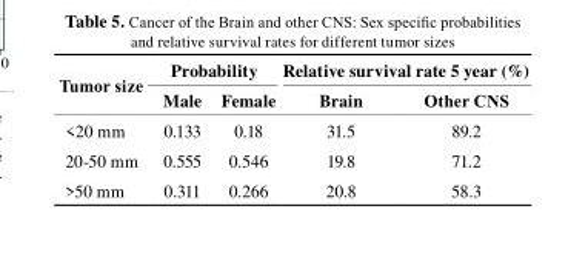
<table><thead><tr><td rowspan="2">Tumor size</td><td colspan="2">Probability</td><td colspan="2">relative survival rate 5 year (%)</td></tr><tr><td>Male</td><td>Female</td><td>brain</td><td>Other CNS</td></tr></thead><tbody><tr><td>&lt;20 mm</td><td>0.133</td><td>0.18</td><td>31.5</td><td>89.2</td></tr><tr><td>20-50 mm</td><td>0.555</td><td>0.546</td><td>19.8</td><td>71.2</td></tr><tr><td>&gt;50 mm</td><td>0.311</td><td>0.266</td><td>20.8</td><td>58.3</td></tr></tbody></table>